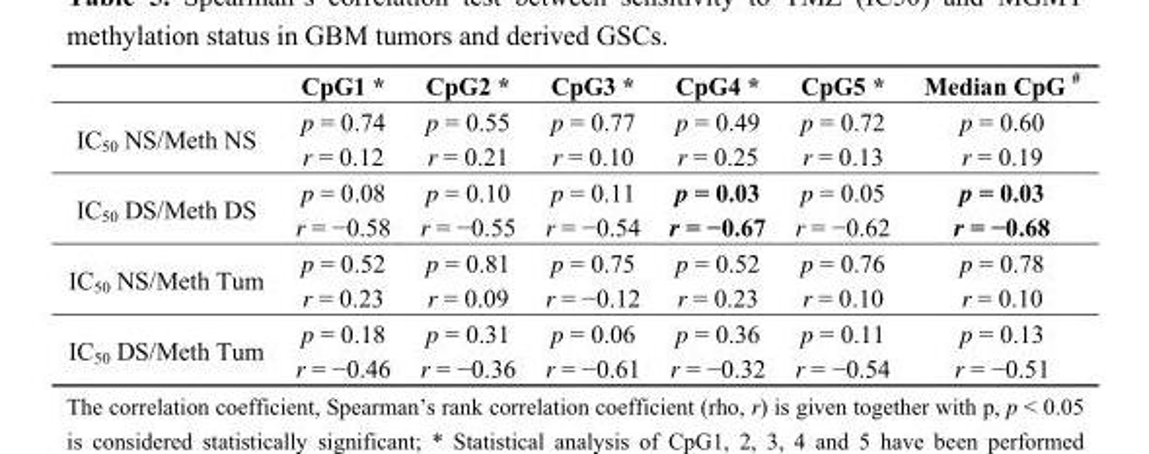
<table><thead><tr><td></td><td>CpG1 *</td><td>CpG2 *</td><td>CpG3 *</td><td>CpG4 *</td><td>CpG5 *</td><td>Median CpG #</td></tr></thead><tbody><tr><td rowspan="2">IC<sub>50</sub> NS/Meth NS</td><td>p = 0.74</td><td>p = 0.55</td><td>p = 0.77</td><td>p = 0.49</td><td>p = 0.72</td><td>p = 0.60</td></tr><tr><td>r = 0.12</td><td>r = 0.21</td><td>r = 0.10</td><td>r = 0.25</td><td>r = 0.13</td><td>r = 0.19</td></tr><tr><td rowspan="2">IC<sub>50</sub> DS/Meth DS</td><td>p = 0.08</td><td>p = 0.10</td><td>p = 0.11</td><td>p = 0.03</td><td>p = 0.05</td><td>p = 0.03</td></tr><tr><td>r = −0.58</td><td>r = −0.55</td><td>r = −0.54</td><td>r = −0.67</td><td>r = −0.62</td><td>r = −0.68</td></tr><tr><td rowspan="2">IC<sub>50</sub> NS/Meth Tum</td><td>p = 0.52</td><td>p = 0.81</td><td>p = 0.75</td><td>p = 0.52</td><td>p = 0.76</td><td>p = 0.78</td></tr><tr><td>r = 0.23</td><td>r = 0.09</td><td>r = −0.12</td><td>r = 0.23</td><td>r = 0.10</td><td>r = 0.10</td></tr><tr><td rowspan="2">IC<sub>50</sub> DS/Meth Tum</td><td>p = 0.18</td><td>p = 0.31</td><td>p = 0.06</td><td>p = 0.36</td><td>p = 0.11</td><td>p = 0.13</td></tr><tr><td>r = −0.46</td><td>r = −0.36</td><td>r = −0.61</td><td>r = −0.32</td><td>r = −0.54</td><td>r = −0.51</td></tr></tbody></table>